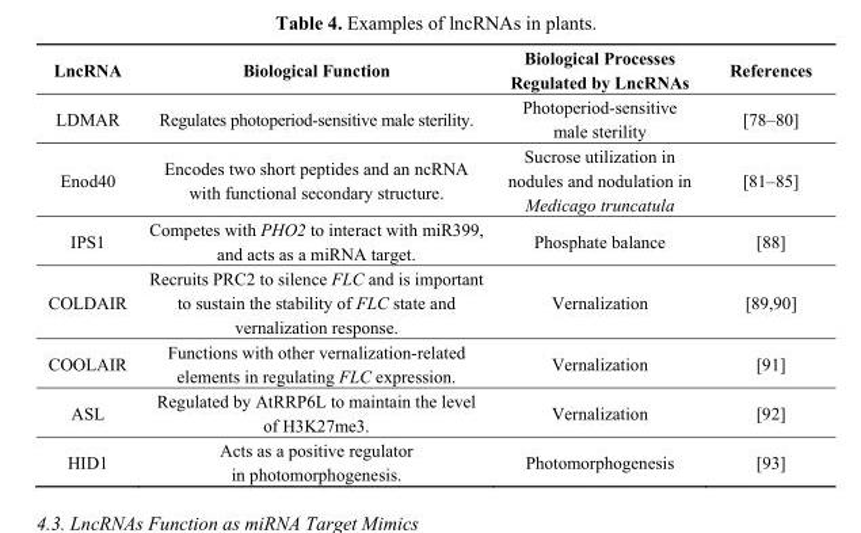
<table><thead><tr><td>LncRNA</td><td>Biological Function</td><td>Biological Processes Regulated by LncRNAs</td><td>References</td></tr></thead><tbody><tr><td>LDMAR</td><td>Regulates photoperiod-sensitive male sterility.</td><td>Photoperiod-sensitive male sterility</td><td>[78–80]</td></tr><tr><td>Enod40</td><td>Encodes two short peptides and an ncRNA with functional secondary structure.</td><td>Sucrose utilization in nodules and nodulation in Medicago truncatula</td><td>[81–85]</td></tr><tr><td>IPS1</td><td>Competes with PHO2 to interact with miR399, and acts as a miRNA target.</td><td>Phosphate balance</td><td>[88]</td></tr><tr><td>COLDAIR</td><td>Recruits PRC2 to silence FLC and is important to sustain the stability of FLC state and vernalization response.</td><td>Vernalization</td><td>[89,90]</td></tr><tr><td>COOLAIR</td><td>Functions with other vernalization-related elements in regulating FLC expression.</td><td>Vernalization</td><td>[91]</td></tr><tr><td>ASL</td><td>Regulated by AtRRP6L to maintain the level of H3K27me3.</td><td>Vernalization</td><td>[92]</td></tr><tr><td>HID1</td><td>Acts as a positive regulator in photomorphogenesis.</td><td>Photomorphogenesis</td><td>[93]</td></tr></tbody></table>